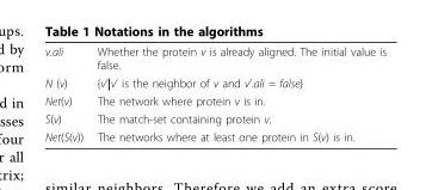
<table><tbody><tr><td>v.ali</td><td>Whether the protein v is already aligned. The initial value is false.</td></tr><tr><td>N (v)</td><td>{v’|v’ is the neighbor of v and v’.ali = false}</td></tr><tr><td>Net(v)</td><td>The network where protein v is in.</td></tr><tr><td>S(v)</td><td>The match-set containing protein v.</td></tr><tr><td>Net(S(v))</td><td>The networks where at least one protein in S(v) is in.</td></tr></tbody></table>